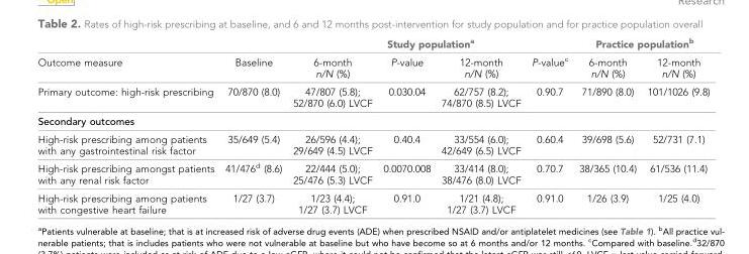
<table><thead><tr><td rowspan="2">Outcome measure</td><td rowspan="2">Baseline</td><td colspan="4">Study population<sup>a</sup></td><td colspan="2">Practice population<sup>b</sup></td></tr><tr><td>6-month n/N (%)</td><td>P-value</td><td>12-month n/N (%)</td><td>P-value<sup>c</sup></td><td>6-month n/N (%)</td><td>12-month n/N (%)</td></tr></thead><tbody><tr><td>Primary outcome: high-risk prescribing</td><td>70/870 (8.0)</td><td>47/807 (5.8); 52/870 (6.0) LVCF</td><td>0.030.04</td><td>62/757 (8.2); 74/870 (8.5) LVCF</td><td>0.90.7</td><td>71/890 (8.0)</td><td>101/1026 (9.8)</td></tr><tr><td colspan="8">Secondary outcomes</td></tr><tr><td>High-risk prescribing among patients with any gastrointestinal risk factor</td><td>35/649 (5.4)</td><td>26/596 (4.4); 29/649 (4.5) LVCF</td><td>0.40.4</td><td>33/554 (6.0); 42/649 (6.5) LVCF</td><td>0.60.4</td><td>39/698 (5.6)</td><td>52/731 (7.1)</td></tr><tr><td>High-risk prescribing amongst patients with any renal risk factor</td><td>41/476<sup>d</sup> (8.6)</td><td>22/444 (5.0); 25/476 (5.3) LVCF</td><td>0.0070.008</td><td>33/414 (8.0); 38/476 (8.0) LVCF</td><td>0.70.7</td><td>38/365 (10.4)</td><td>61/536 (11.4)</td></tr><tr><td>High-risk prescribing among patients with congestive heart failure</td><td>1/27 (3.7)</td><td>1/23 (4.4); 1/27 (3.7) LVCF</td><td>0.91.0</td><td>1/21 (4.8); 1/27 (3.7) LVCF</td><td>0.91.0</td><td>1/26 (3.9)</td><td>1/25 (4.0)</td></tr></tbody></table>